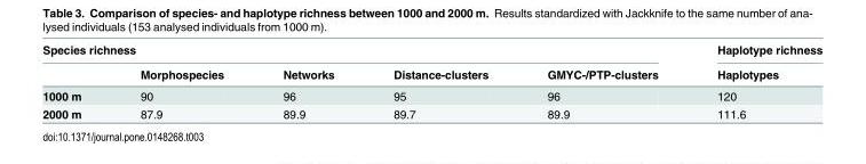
<table><thead><tr><td colspan="5">Species richness</td><td rowspan="2">Haplotype richness Haplotypes</td></tr><tr><td></td><td>Morphospecies</td><td>Networks</td><td>Distance-clusters</td><td>GMYC-/PTP-clusters</td></tr></thead><tbody><tr><td>1000 m</td><td>90</td><td>96</td><td>95</td><td>96</td><td>120</td></tr><tr><td>2000 m</td><td>87.9</td><td>89.9</td><td>89.7</td><td>89.9</td><td>111.6</td></tr></tbody></table>